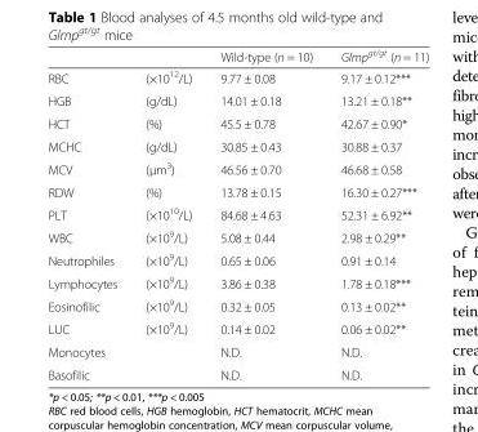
<table><thead><tr><td></td><td></td><td>Wild-type (n = 10)</td><td>Glmp<sup>gt/gt</sup> (n = 11)</td></tr></thead><tbody><tr><td>RBC</td><td>(×10<sup>12</sup>/L)</td><td>9.77 ± 0.08</td><td>9.17 ± 0.12***</td></tr><tr><td>HGB</td><td>(g/dL)</td><td>14.01 ± 0.18</td><td>13.21 ± 0.18**</td></tr><tr><td>HCT</td><td>(%)</td><td>45.5 ± 0.78</td><td>42.67 ± 0.90*</td></tr><tr><td>MCHC</td><td>(g/dL)</td><td>30.85 ± 0.43</td><td>30.88 ± 0.37</td></tr><tr><td>MCV</td><td>(μm<sup>3</sup>)</td><td>46.56 ± 0.70</td><td>46.68 ± 0.58</td></tr><tr><td>RDW</td><td>(%)</td><td>13.78 ± 0.15</td><td>16.30 ± 0.27***</td></tr><tr><td>PLT</td><td>(×10<sup>10</sup>/L)</td><td>84.68 ± 4.63</td><td>52.31 ± 6.92**</td></tr><tr><td>WBC</td><td>(×10<sup>9</sup>/L)</td><td>5.08 ± 0.44</td><td>2.98 ± 0.29**</td></tr><tr><td>Neutrophiles</td><td>(×10<sup>9</sup>/L)</td><td>0.65 ± 0.06</td><td>0.91 ± 0.14</td></tr><tr><td>Lymphocytes</td><td>(×10<sup>9</sup>/L)</td><td>3.86 ± 0.38</td><td>1.78 ± 0.18***</td></tr><tr><td>Eosinofilic</td><td>(×10<sup>9</sup>/L)</td><td>0.32 ± 0.05</td><td>0.13 ± 0.02**</td></tr><tr><td>LUC</td><td>(×10<sup>9</sup>/L)</td><td>0.14 ± 0.02</td><td>0.06 ± 0.02**</td></tr><tr><td>Monocytes</td><td></td><td>N.D.</td><td>N.D.</td></tr><tr><td>Basofilic</td><td></td><td>N.D.</td><td>N.D.</td></tr></tbody></table>